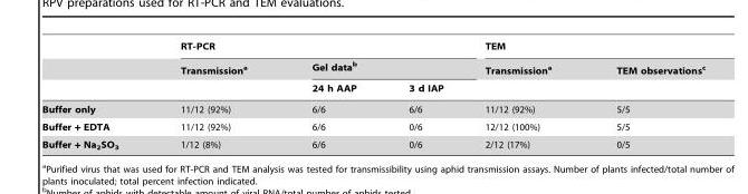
<table><thead><tr><td rowspan="3"></td><td colspan="3">RT-PCR</td><td colspan="2">TEM</td></tr><tr><td rowspan="2">Transmission<sup>a</sup></td><td colspan="2">Gel data<sup>b</sup></td><td rowspan="2">Transmission<sup>a</sup></td><td rowspan="2">TEM observations<sup>c</sup></td></tr><tr><td>24 h AAP</td><td>3 d IAP</td></tr></thead><tbody><tr><td>Buffer only</td><td>11/12 (92%)</td><td>6/6</td><td>6/6</td><td>11/12 (92%)</td><td>5/5</td></tr><tr><td>Buffer + EDTA</td><td>11/12 (92%)</td><td>6/6</td><td>0/6</td><td>12/12 (100%)</td><td>5/5</td></tr><tr><td>Buffer + Na<sub>2</sub>SO<sub>3</sub></td><td>1/12 (8%)</td><td>6/6</td><td>0/6</td><td>2/12 (17%)</td><td>0/5</td></tr></tbody></table>